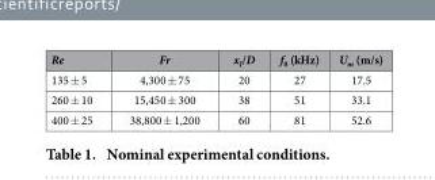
<table><thead><tr><td>Re</td><td>Fr</td><td>x<sub>I</sub>/D</td><td>f<sub>0</sub> (kHz)</td><td>U<sub>m</sub> (m/s)</td></tr></thead><tbody><tr><td>135 ± 5</td><td>4,300 ± 75</td><td>20</td><td>27</td><td>17.5</td></tr><tr><td>260 ± 10</td><td>15,450 ± 300</td><td>38</td><td>51</td><td>33.1</td></tr><tr><td>400 ± 25</td><td>38,800 ± 1,200</td><td>60</td><td>81</td><td>52.6</td></tr></tbody></table>